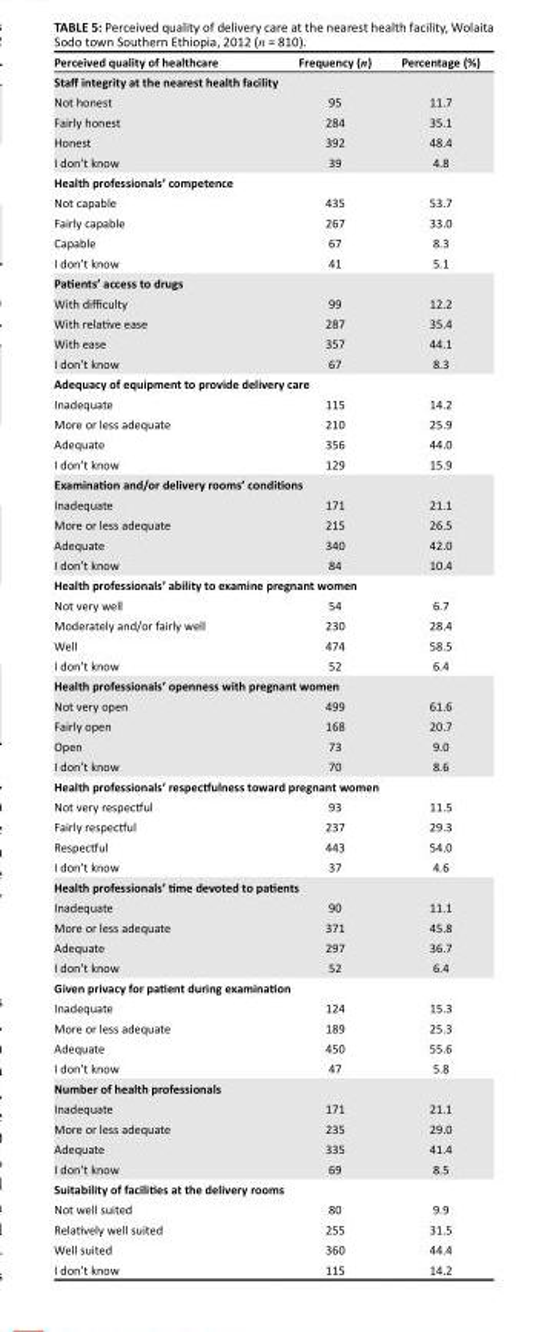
<table><thead><tr><td>Perceived quality of healthcare</td><td>Frequency (n)</td><td>Percentage (%)</td></tr></thead><tbody><tr><td colspan="3">Staff integrity at the nearest health facility</td></tr><tr><td>Not honest</td><td>95</td><td>11.7</td></tr><tr><td>Fairly honest</td><td>284</td><td>35.1</td></tr><tr><td>Honest</td><td>392</td><td>48.4</td></tr><tr><td>I don’t know</td><td>39</td><td>4.8</td></tr><tr><td colspan="3">Health professionals’ competence</td></tr><tr><td>Not capable</td><td>435</td><td>53.7</td></tr><tr><td>Fairly capable</td><td>267</td><td>33.0</td></tr><tr><td>Capable</td><td>67</td><td>8.3</td></tr><tr><td>I don’t know</td><td>41</td><td>5.1</td></tr><tr><td colspan="3">Patients’ access to drugs</td></tr><tr><td>With difficulty</td><td>99</td><td>12.2</td></tr><tr><td>With relative ease</td><td>287</td><td>35.4</td></tr><tr><td>With ease</td><td>357</td><td>44.1</td></tr><tr><td>I don’t know</td><td>67</td><td>8.3</td></tr><tr><td colspan="3">Adequacy of equipment to provide delivery care</td></tr><tr><td>Inadequate</td><td>115</td><td>14.2</td></tr><tr><td>More or less adequate</td><td>210</td><td>25.9</td></tr><tr><td>Adequate</td><td>356</td><td>44.0</td></tr><tr><td>I don’t know</td><td>129</td><td>15.9</td></tr><tr><td colspan="3">Examination and/or delivery rooms’ conditions</td></tr><tr><td>Inadequate</td><td>171</td><td>21.1</td></tr><tr><td>More or less adequate</td><td>215</td><td>26.5</td></tr><tr><td>Adequate</td><td>340</td><td>42.0</td></tr><tr><td>I don’t know</td><td>84</td><td>10.4</td></tr><tr><td colspan="3">Health professionals’ ability to examine pregnant women</td></tr><tr><td>Not very well</td><td>54</td><td>6.7</td></tr><tr><td>Moderately and/or fairly well</td><td>230</td><td>28.4</td></tr><tr><td>Well</td><td>474</td><td>58.5</td></tr><tr><td>I don’t know</td><td>52</td><td>6.4</td></tr><tr><td colspan="3">Health professionals’ openness with pregnant women</td></tr><tr><td>Not very open</td><td>499</td><td>61.6</td></tr><tr><td>Fairly open</td><td>168</td><td>20.7</td></tr><tr><td>Open</td><td>73</td><td>9.0</td></tr><tr><td>I don’t know</td><td>70</td><td>8.6</td></tr><tr><td colspan="3">Health professionals’ respectfulness toward pregnant women</td></tr><tr><td>Not very respectful</td><td>93</td><td>11.5</td></tr><tr><td>Fairly respectful</td><td>237</td><td>29.3</td></tr><tr><td>Respectful</td><td>443</td><td>54.0</td></tr><tr><td>I don’t know</td><td>37</td><td>4.6</td></tr><tr><td colspan="3">Health professionals’ time devoted to patients</td></tr><tr><td>Inadequate</td><td>90</td><td>11.1</td></tr><tr><td>More or less adequate</td><td>371</td><td>45.8</td></tr><tr><td>Adequate</td><td>297</td><td>36.7</td></tr><tr><td>I don’t know</td><td>52</td><td>6.4</td></tr><tr><td colspan="3">Given privacy for patient during examination</td></tr><tr><td>Inadequate</td><td>124</td><td>15.3</td></tr><tr><td>More or less adequate</td><td>189</td><td>25.3</td></tr><tr><td>Adequate</td><td>450</td><td>55.6</td></tr><tr><td>I don’t know</td><td>47</td><td>5.8</td></tr><tr><td colspan="3">Number of health professionals</td></tr><tr><td>Inadequate</td><td>171</td><td>21.1</td></tr><tr><td>More or less adequate</td><td>235</td><td>29.0</td></tr><tr><td>Adequate</td><td>335</td><td>41.4</td></tr><tr><td>I don’t know</td><td>69</td><td>8.5</td></tr><tr><td colspan="3">Suitability of facilities at the delivery rooms</td></tr><tr><td>Not well suited</td><td>80</td><td>9.9</td></tr><tr><td>Relatively well suited</td><td>255</td><td>31.5</td></tr><tr><td>Well suited</td><td>360</td><td>44.4</td></tr><tr><td>I don’t know</td><td>115</td><td>14.2</td></tr></tbody></table>